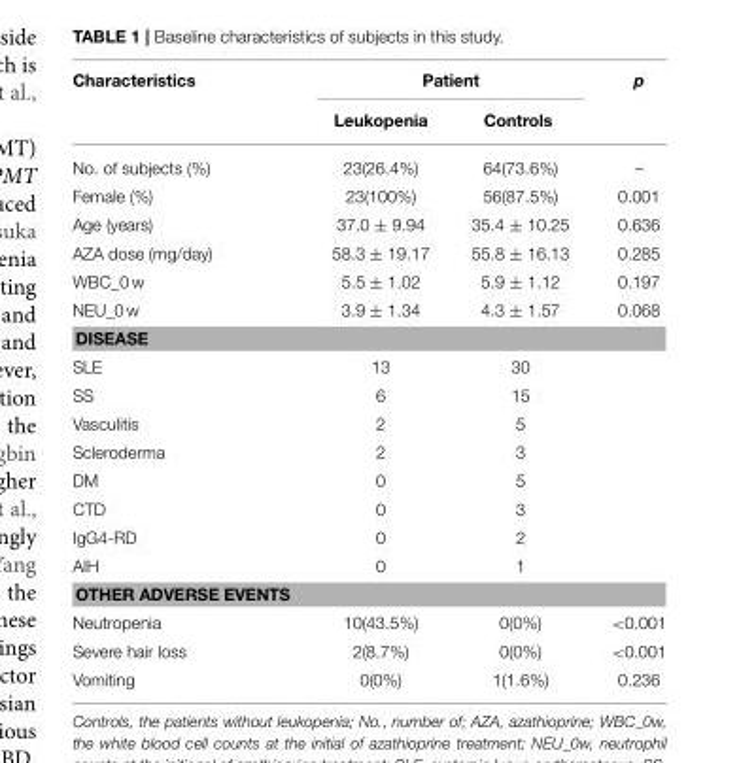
<table><thead><tr><td rowspan="2">Characteristics</td><td colspan="2">Patient</td><td rowspan="2">p</td></tr><tr><td>Leukopenia</td><td>Controls</td></tr></thead><tbody><tr><td>No. of subjects (%)</td><td>23(26.4%)</td><td>64(73.6%)</td><td>–</td></tr><tr><td>Female (%)</td><td>23(100%)</td><td>56(87.5%)</td><td>0.001</td></tr><tr><td>Age (years)</td><td>37.0 ± 9.94</td><td>35.4 ± 10.25</td><td>0.636</td></tr><tr><td>AZA dose (mg/day)</td><td>58.3 ± 19.17</td><td>55.8 ± 16.13</td><td>0.285</td></tr><tr><td>WBC_0 w</td><td>5.5 ± 1.02</td><td>5.9 ± 1.12</td><td>0.197</td></tr><tr><td>NEU_0 w</td><td>3.9 ± 1.34</td><td>4.3 ± 1.57</td><td>0.068</td></tr><tr><td colspan="4">DISEASE</td></tr><tr><td>SLE</td><td>13</td><td>30</td><td></td></tr><tr><td>SS</td><td>6</td><td>15</td><td></td></tr><tr><td>Vasculitis</td><td>2</td><td>5</td><td></td></tr><tr><td>Scleroderma</td><td>2</td><td>3</td><td></td></tr><tr><td>DM</td><td>0</td><td>5</td><td></td></tr><tr><td>CTD</td><td>0</td><td>3</td><td></td></tr><tr><td>IgG4-RD</td><td>0</td><td>2</td><td></td></tr><tr><td>AIH</td><td>0</td><td>1</td><td></td></tr><tr><td colspan="4">OTHER ADVERSE EVENTS</td></tr><tr><td>Neutropenia</td><td>10(43.5%)</td><td>0(0%)</td><td>&lt;0.001</td></tr><tr><td>Severe hair loss</td><td>2(8.7%)</td><td>0(0%)</td><td>&lt;0.001</td></tr><tr><td>Vomiting</td><td>0(0%)</td><td>1(1.6%)</td><td>0.236</td></tr></tbody></table>